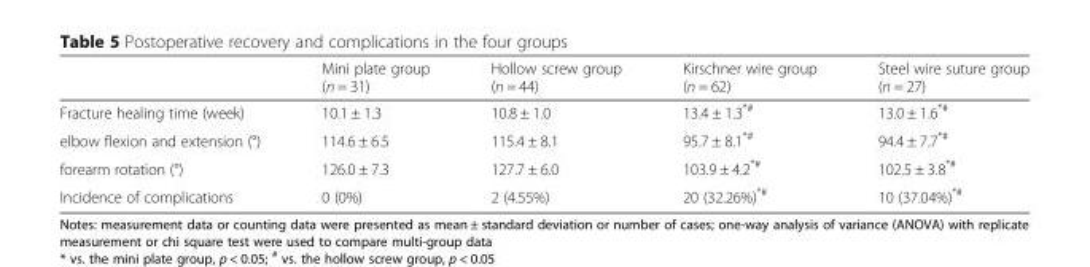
<table><thead><tr><td></td><td>Mini plate group (n = 31)</td><td>Hollow screw group (n = 44)</td><td>Kirschner wire group (n = 62)</td><td>Steel wire suture group (n = 27)</td></tr></thead><tbody><tr><td>Fracture healing time (week)</td><td>10.1 ± 1.3</td><td>10.8 ± 1.0</td><td>13.4 ± 1.3<sup>*#</sup></td><td>13.0 ± 1.6<sup>*#</sup></td></tr><tr><td>elbow flexion and extension (°)</td><td>114.6 ± 6.5</td><td>115.4 ± 8.1</td><td>95.7 ± 8.1<sup>*#</sup></td><td>94.4 ± 7.7<sup>*#</sup></td></tr><tr><td>forearm rotation (°)</td><td>126.0 ± 7.3</td><td>127.7 ± 6.0</td><td>103.9 ± 4.2<sup>*#</sup></td><td>102.5 ± 3.8<sup>*#</sup></td></tr><tr><td>Incidence of complications</td><td>0 (0%)</td><td>2 (4.55%)</td><td>20 (32.26%)<sup>*#</sup></td><td>10 (37.04%)<sup>*#</sup></td></tr></tbody></table>